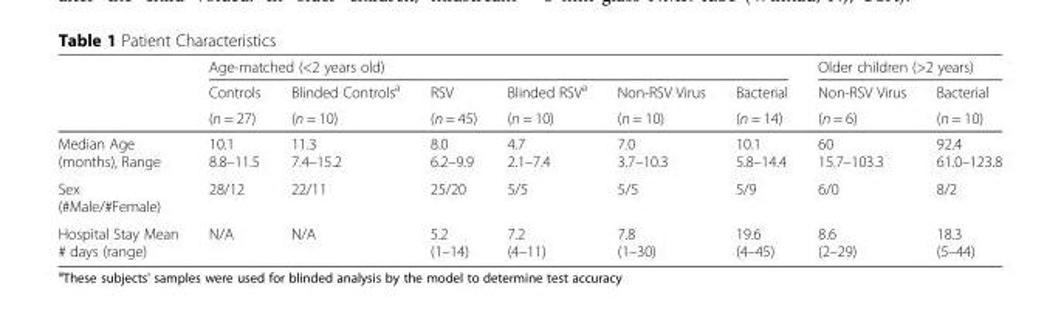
<table><thead><tr><td rowspan="3"></td><td colspan="6">Age-matched (&lt;2 years old)</td><td colspan="2">Older children (&gt;2 years)</td></tr><tr><td rowspan="2">Controls (n = 27)</td><td rowspan="2">Blinded Controls<sup>a</sup> (n = 10)</td><td rowspan="2">RSV (n = 45)</td><td rowspan="2">Blinded RSV<sup>a</sup> (n = 10)</td><td rowspan="2">Non-RSV Virus (n = 10)</td><td rowspan="2">Bacterial (n = 14)</td><td rowspan="2">Non-RSV Virus (n = 6)</td><td rowspan="2">Bacterial (n = 10)</td></tr><tr></tr></thead><tbody><tr><td>Median Age (months), Range</td><td>10.1 8.8–11.5</td><td>11.3 7.4–15.2</td><td>8.0 6.2–9.9</td><td>4.7 2.1–7.4</td><td>7.0 3.7–10.3</td><td>10.1 5.8–14.4</td><td>60 15.7–103.3</td><td>92.4 61.0–123.8</td></tr><tr><td>Sex (#Male/#Female)</td><td>28/12</td><td>22/11</td><td>25/20</td><td>5/5</td><td>5/5</td><td>5/9</td><td>6/0</td><td>8/2</td></tr><tr><td>Hospital Stay Mean # days (range)</td><td>N/A</td><td>N/A</td><td>5.2 (1–14)</td><td>7.2 (4–11)</td><td>7.8 (1–30)</td><td>19.6 (4–45)</td><td>8.6 (2–29)</td><td>18.3 (5–44)</td></tr></tbody></table>